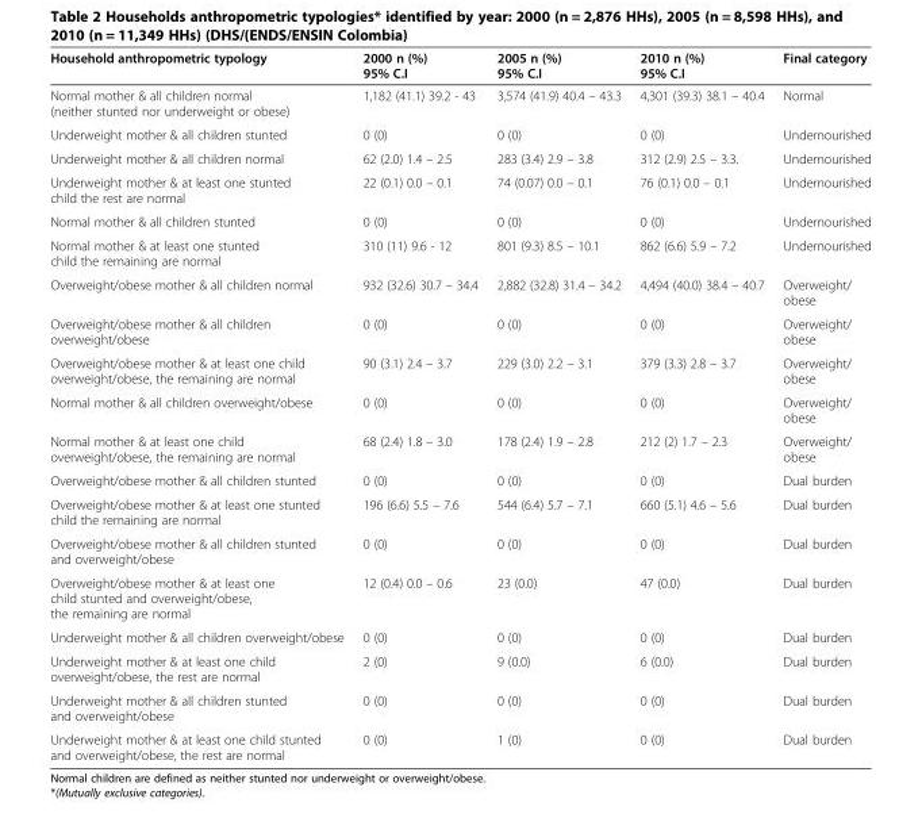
<table><thead><tr><td>Household anthropometric typology</td><td>2000 n (%) 95% C.I</td><td>2005 n (%) 95% C.I</td><td>2010 n (%) 95% C.I</td><td>Final category</td></tr></thead><tbody><tr><td>Normal mother &amp; all children normal (neither stunted nor underweight or obese)</td><td>1,182 (41.1) 39.2 - 43</td><td>3,574 (41.9) 40.4 – 43.3</td><td>4,301 (39.3) 38.1 – 40.4</td><td>Normal</td></tr><tr><td>Underweight mother &amp; all children stunted</td><td>0 (0)</td><td>0 (0)</td><td>0 (0)</td><td>Undernourished</td></tr><tr><td>Underweight mother &amp; all children normal</td><td>62 (2.0) 1.4 – 2.5</td><td>283 (3.4) 2.9 – 3.8</td><td>312 (2.9) 2.5 – 3.3.</td><td>Undernourished</td></tr><tr><td>Underweight mother &amp; at least one stunted child the rest are normal</td><td>22 (0.1) 0.0 – 0.1</td><td>74 (0.07) 0.0 – 0.1</td><td>76 (0.1) 0.0 – 0.1</td><td>Undernourished</td></tr><tr><td>Normal mother &amp; all children stunted</td><td>0 (0)</td><td>0 (0)</td><td>0 (0)</td><td>Undernourished</td></tr><tr><td>Normal mother &amp; at least one stunted child the remaining are normal</td><td>310 (11) 9.6 - 12</td><td>801 (9.3) 8.5 – 10.1</td><td>862 (6.6) 5.9 – 7.2</td><td>Undernourished</td></tr><tr><td>Overweight/obese mother &amp; all children normal</td><td>932 (32.6) 30.7 – 34.4</td><td>2,882 (32.8) 31.4 – 34.2</td><td>4,494 (40.0) 38.4 – 40.7</td><td>Overweight/ obese</td></tr><tr><td>Overweight/obese mother &amp; all children overweight/obese</td><td>0 (0)</td><td>0 (0)</td><td>0 (0)</td><td>Overweight/ obese</td></tr><tr><td>Overweight/obese mother &amp; at least one child overweight/obese, the remaining are normal</td><td>90 (3.1) 2.4 – 3.7</td><td>229 (3.0) 2.2 – 3.1</td><td>379 (3.3) 2.8 – 3.7</td><td>Overweight/ obese</td></tr><tr><td>Normal mother &amp; all children overweight/obese</td><td>0 (0)</td><td>0 (0)</td><td>0 (0)</td><td>Overweight/ obese</td></tr><tr><td>Normal mother &amp; at least one child overweight/obese, the remaining are normal</td><td>68 (2.4) 1.8 – 3.0</td><td>178 (2.4) 1.9 – 2.8</td><td>212 (2) 1.7 – 2.3</td><td>Overweight/ obese</td></tr><tr><td>Overweight/obese mother &amp; all children stunted</td><td>0 (0)</td><td>0 (0)</td><td>0 (0)</td><td>Dual burden</td></tr><tr><td>Overweight/obese mother &amp; at least one stunted child the remaining are normal</td><td>196 (6.6) 5.5 – 7.6</td><td>544 (6.4) 5.7 – 7.1</td><td>660 (5.1) 4.6 – 5.6</td><td>Dual burden</td></tr><tr><td>Overweight/obese mother &amp; all children stunted and overweight/obese</td><td>0 (0)</td><td>0 (0)</td><td>0 (0)</td><td>Dual burden</td></tr><tr><td>Overweight/obese mother &amp; at least one child stunted and overweight/obese, the remaining are normal</td><td>12 (0.4) 0.0 – 0.6</td><td>23 (0.0)</td><td>47 (0.0)</td><td>Dual burden</td></tr><tr><td>Underweight mother &amp; all children overweight/obese</td><td>0 (0)</td><td>0 (0)</td><td>0 (0)</td><td>Dual burden</td></tr><tr><td>Underweight mother &amp; at least one child overweight/obese, the rest are normal</td><td>2 (0)</td><td>9 (0.0)</td><td>6 (0.0)</td><td>Dual burden</td></tr><tr><td>Underweight mother &amp; all children stunted and overweight/obese</td><td>0 (0)</td><td>0 (0)</td><td>0 (0)</td><td>Dual burden</td></tr><tr><td>Underweight mother &amp; at least one child stunted and overweight/obese, the rest are normal</td><td>0 (0)</td><td>1 (0)</td><td>0 (0)</td><td>Dual burden</td></tr></tbody></table>